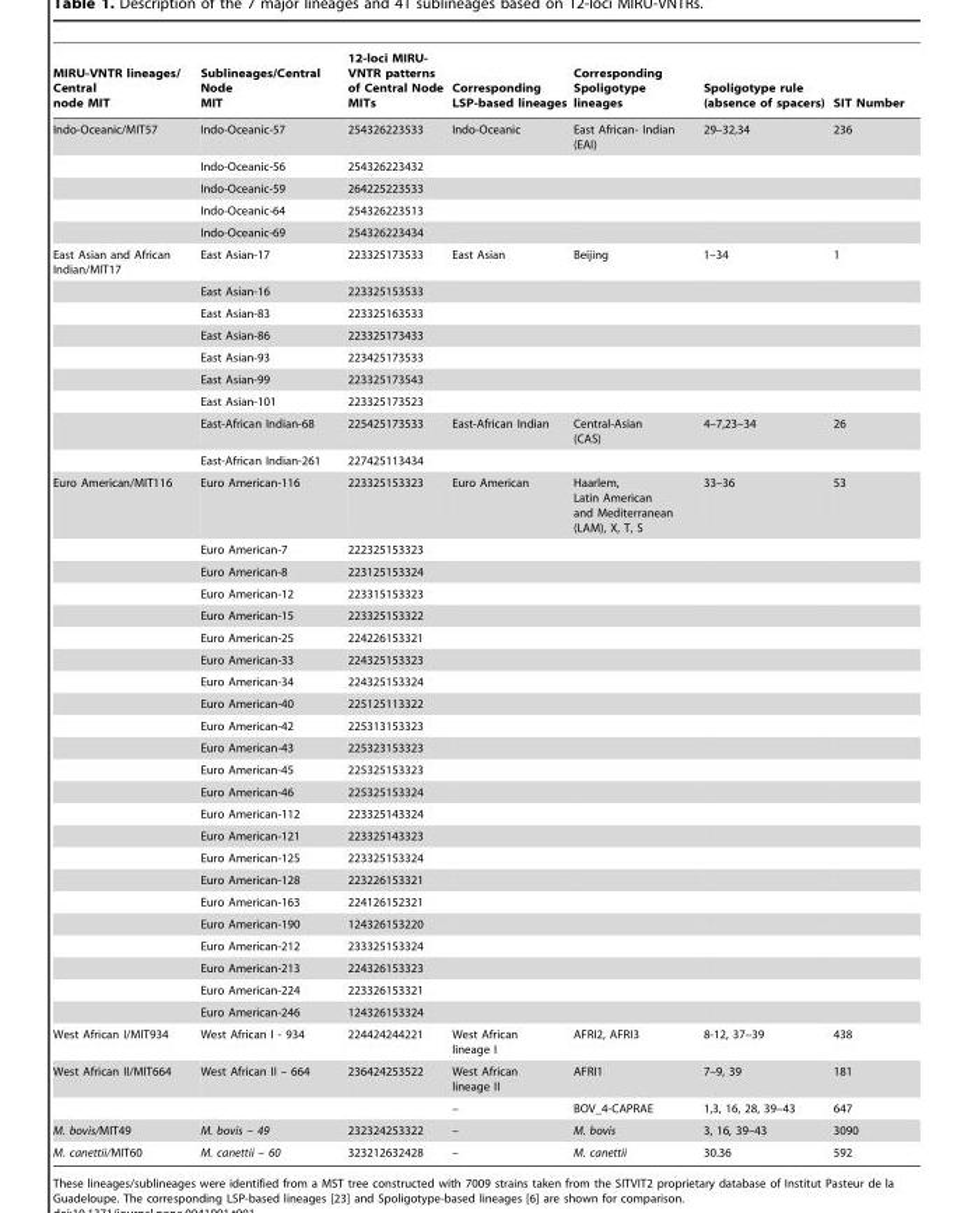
<table><thead><tr><td>MIRU-VNTR lineages/ Central node MIT</td><td>Sublineages/Central Node MIT</td><td>12-loci MIRU- VNTR patterns of Central Node MITs</td><td>Corresponding LSP-based lineages</td><td>Corresponding Spoligotype lineages</td><td>Spoligotype rule (absence of spacers)</td><td>SIT Number</td></tr></thead><tbody><tr><td rowspan="5">Indo-Oceanic/MIT57</td><td>Indo-Oceanic-57</td><td>254326223533</td><td>Indo-Oceanic</td><td>East African- Indian (EAI)</td><td>29–32,34</td><td>236</td></tr><tr><td>Indo-Oceanic-56</td><td>254326223432</td><td></td><td></td><td></td><td></td></tr><tr><td>Indo-Oceanic-59</td><td>264225223533</td><td></td><td></td><td></td><td></td></tr><tr><td>Indo-Oceanic-64</td><td>254326223513</td><td></td><td></td><td></td><td></td></tr><tr><td>Indo-Oceanic-69</td><td>254326223434</td><td></td><td></td><td></td><td></td></tr><tr><td rowspan="9">East Asian and African Indian/MIT17</td><td>East Asian-17</td><td>223325173533</td><td>East Asian</td><td>Beijing</td><td>1–34</td><td>1</td></tr><tr><td>East Asian-16</td><td>223325153533</td><td></td><td></td><td></td><td></td></tr><tr><td>East Asian-83</td><td>223325163533</td><td></td><td></td><td></td><td></td></tr><tr><td>East Asian-86</td><td>223325173433</td><td></td><td></td><td></td><td></td></tr><tr><td>East Asian-93</td><td>223425173533</td><td></td><td></td><td></td><td></td></tr><tr><td>East Asian-99</td><td>223325173543</td><td></td><td></td><td></td><td></td></tr><tr><td>East Asian-101</td><td>223325173523</td><td></td><td></td><td></td><td></td></tr><tr><td>East-African Indian-68</td><td>225425173533</td><td>East-African Indian</td><td>Central-Asian (CAS)</td><td>4–7,23–34</td><td>26</td></tr><tr><td>East-African Indian-261</td><td>227425113434</td><td></td><td></td><td></td><td></td></tr><tr><td rowspan="23">Euro American/MIT116</td><td>Euro American-116</td><td>223325153323</td><td>Euro American</td><td>Haarlem, Latin American and Mediterranean (LAM), X, T, S</td><td>33–36</td><td>53</td></tr><tr><td>Euro American-7</td><td>222325153323</td><td></td><td></td><td></td><td></td></tr><tr><td>Euro American-8</td><td>223125153324</td><td></td><td></td><td></td><td></td></tr><tr><td>Euro American-12</td><td>223315153323</td><td></td><td></td><td></td><td></td></tr><tr><td>Euro American-15</td><td>223325153322</td><td></td><td></td><td></td><td></td></tr><tr><td>Euro American-25</td><td>224226153321</td><td></td><td></td><td></td><td></td></tr><tr><td>Euro American-33</td><td>224325153323</td><td></td><td></td><td></td><td></td></tr><tr><td>Euro American-34</td><td>224325153324</td><td></td><td></td><td></td><td></td></tr><tr><td>Euro American-40</td><td>225125113322</td><td></td><td></td><td></td><td></td></tr><tr><td>Euro American-42</td><td>225313153323</td><td></td><td></td><td></td><td></td></tr><tr><td>Euro American-43</td><td>225323153323</td><td></td><td></td><td></td><td></td></tr><tr><td>Euro American-45</td><td>225325153323</td><td></td><td></td><td></td><td></td></tr><tr><td>Euro American-46</td><td>225325153324</td><td></td><td></td><td></td><td></td></tr><tr><td>Euro American-112</td><td>223325143324</td><td></td><td></td><td></td><td></td></tr><tr><td>Euro American-121</td><td>223325143323</td><td></td><td></td><td></td><td></td></tr><tr><td>Euro American-125</td><td>223325153324</td><td></td><td></td><td></td><td></td></tr><tr><td>Euro American-128</td><td>223226153321</td><td></td><td></td><td></td><td></td></tr><tr><td>Euro American-163</td><td>224126152321</td><td></td><td></td><td></td><td></td></tr><tr><td>Euro American-190</td><td>124326153220</td><td></td><td></td><td></td><td></td></tr><tr><td>Euro American-212</td><td>233325153324</td><td></td><td></td><td></td><td></td></tr><tr><td>Euro American-213</td><td>224326153323</td><td></td><td></td><td></td><td></td></tr><tr><td>Euro American-224</td><td>223326153321</td><td></td><td></td><td></td><td></td></tr><tr><td>Euro American-246</td><td>124326153324</td><td></td><td></td><td></td><td></td></tr><tr><td>West African I/MIT934</td><td>West African I - 934</td><td>224424244221</td><td>West African lineage I</td><td>AFRI2, AFRI3</td><td>8-12, 37–39</td><td>438</td></tr><tr><td rowspan="2">West African II/MIT664</td><td>West African II – 664</td><td>236424253522</td><td>West African lineage II</td><td>AFRI1</td><td>7–9, 39</td><td>181</td></tr><tr><td></td><td></td><td>–</td><td>BOV_4-CAPRAE</td><td>1,3, 16, 28, 39–43</td><td>647</td></tr><tr><td>M. bovis/MIT49</td><td>M. bovis – 49</td><td>232324253322</td><td>–</td><td>M. bovis</td><td>3, 16, 39–43</td><td>3090</td></tr><tr><td>M. canettii/MIT60</td><td>M. canettii – 60</td><td>323212632428</td><td>–</td><td>M. canettii</td><td>30.36</td><td>592</td></tr></tbody></table>